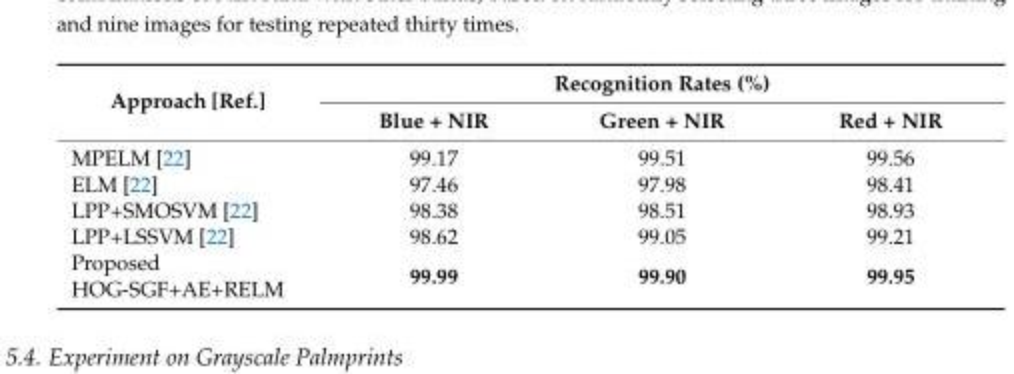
<table><thead><tr><td rowspan="2">Approach [Ref.]</td><td colspan="3">Recognition Rates (%)</td></tr><tr><td>Blue + NIR</td><td>Green + NIR</td><td>Red + NIR</td></tr></thead><tbody><tr><td>MPELM [22]</td><td>99.17</td><td>99.51</td><td>99.56</td></tr><tr><td>ELM [22]</td><td>97.46</td><td>97.98</td><td>98.41</td></tr><tr><td>LPP+SMOSVM [22]</td><td>98.38</td><td>98.51</td><td>98.93</td></tr><tr><td>LPP+LSSVM [22]</td><td>98.62</td><td>99.05</td><td>99.21</td></tr><tr><td>Proposed HOG-SGF+AE+RELM</td><td>99.99</td><td>99.90</td><td>99.95</td></tr></tbody></table>